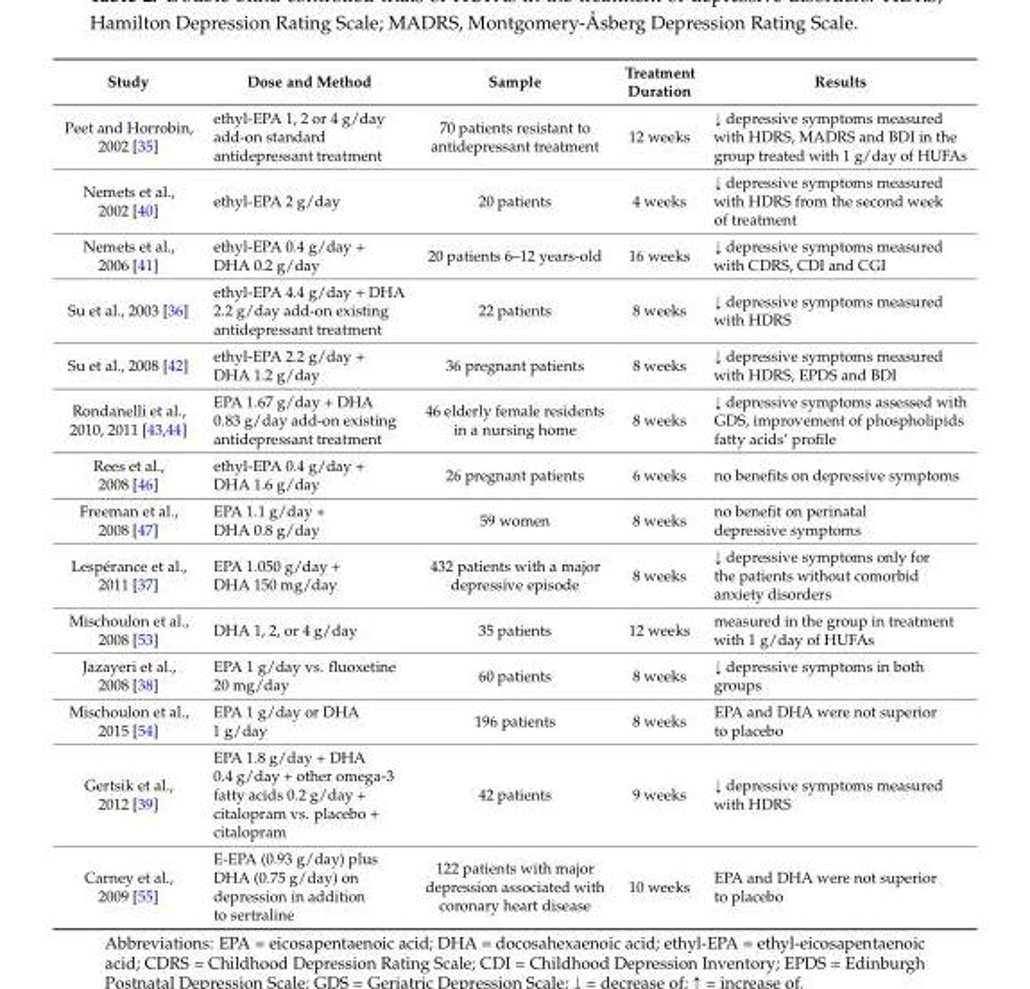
<table><thead><tr><td>Study</td><td>Dose and Method</td><td>Sample</td><td>Treatment Duration</td><td>Results</td></tr></thead><tbody><tr><td>Peet and Horrobin, 2002 [35]</td><td>ethyl-EPA 1, 2 or 4 g/day add-on standard antidepressant treatment</td><td>70 patients resistant to antidepressant treatment</td><td>12 weeks</td><td>↓ depressive symptoms measured with HDRS, MADRS and BDI in the group treated with 1 g/day of HUFAs</td></tr><tr><td>Nemets et al., 2002 [40]</td><td>ethyl-EPA 2 g/day</td><td>20 patients</td><td>4 weeks</td><td>↓ depressive symptoms measured with HDRS from the second week of treatment</td></tr><tr><td>Nemets et al., 2006 [41]</td><td>ethyl-EPA 0.4 g/day + DHA 0.2 g/day</td><td>20 patients 6–12 years-old</td><td>16 weeks</td><td>↓ depressive symptoms measured with CDRS, CDI and CGI</td></tr><tr><td>Su et al., 2003 [36]</td><td>ethyl-EPA 4.4 g/day + DHA 2.2 g/day add-on existing antidepressant treatment</td><td>22 patients</td><td>8 weeks</td><td>↓ depressive symptoms measured with HDRS</td></tr><tr><td>Su et al., 2008 [42]</td><td>ethyl-EPA 2.2 g/day + DHA 1.2 g/day</td><td>36 pregnant patients</td><td>8 weeks</td><td>↓ depressive symptoms measured with HDRS, EPDS and BDI</td></tr><tr><td>Rondanelli et al., 2010, 2011 [43,44]</td><td>EPA 1.67 g/day + DHA 0.83 g/day add-on existing antidepressant treatment</td><td>46 elderly female residents in a nursing home</td><td>8 weeks</td><td>↓ depressive symptoms assessed with GDS, improvement of phospholipids fatty acids’ profile</td></tr><tr><td>Rees et al., 2008 [46]</td><td>ethyl-EPA 0.4 g/day + DHA 1.6 g/day</td><td>26 pregnant patients</td><td>6 weeks</td><td>no benefits on depressive symptoms</td></tr><tr><td>Freeman et al., 2008 [47]</td><td>EPA 1.1 g/day + DHA 0.8 g/day</td><td>59 women</td><td>8 weeks</td><td>no benefit on perinatal depressive symptoms</td></tr><tr><td>Lespérance et al., 2011 [37]</td><td>EPA 1.050 g/day + DHA 150 mg/day</td><td>432 patients with a major depressive episode</td><td>8 weeks</td><td>↓ depressive symptoms only for the patients without comorbid anxiety disorders</td></tr><tr><td>Mischoulon et al., 2008 [53]</td><td>DHA 1, 2, or 4 g/day</td><td>35 patients</td><td>12 weeks</td><td>measured in the group in treatment with 1 g/day of HUFAs</td></tr><tr><td>Jazayeri et al., 2008 [38]</td><td>EPA 1 g/day vs. fluoxetine 20 mg/day</td><td>60 patients</td><td>8 weeks</td><td>↓ depressive symptoms in both groups</td></tr><tr><td>Mischoulon et al., 2015 [54]</td><td>EPA 1 g/day or DHA 1 g/day</td><td>196 patients</td><td>8 weeks</td><td>EPA and DHA were not superior to placebo</td></tr><tr><td>Gertsik et al., 2012 [39]</td><td>EPA 1.8 g/day + DHA 0.4 g/day + other omega-3 fatty acids 0.2 g/day + citalopram vs. placebo + citalopram</td><td>42 patients</td><td>9 weeks</td><td>↓ depressive symptoms measured with HDRS</td></tr><tr><td>Carney et al., 2009 [55]</td><td>E-EPA (0.93 g/day) plus DHA (0.75 g/day) on depression in addition to sertraline</td><td>122 patients with major depression associated with coronary heart disease</td><td>10 weeks</td><td>EPA and DHA were not superior to placebo</td></tr></tbody></table>